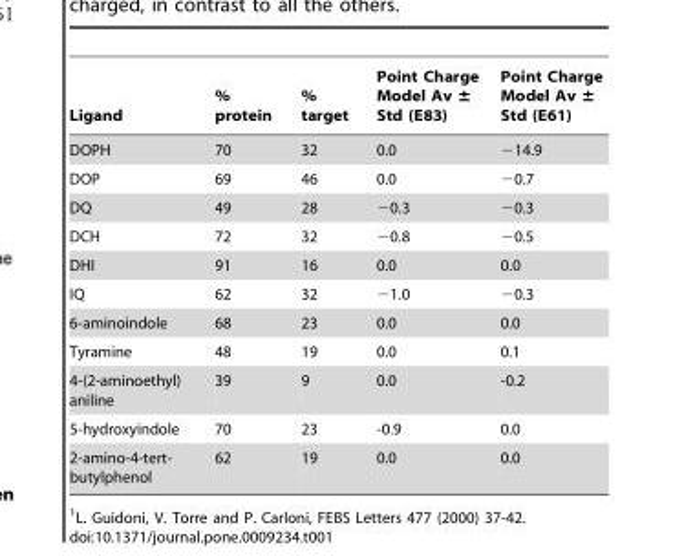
<table><thead><tr><td>Ligand</td><td>% protein</td><td>% target</td><td>Point Charge Model Av ± Std (E83)</td><td>Point Charge Model Av ± Std (E61)</td></tr></thead><tbody><tr><td>DOPH</td><td>70</td><td>32</td><td>0.0</td><td>−14.9</td></tr><tr><td>DOP</td><td>69</td><td>46</td><td>0.0</td><td>−0.7</td></tr><tr><td>DQ</td><td>49</td><td>28</td><td>−0.3</td><td>−0.3</td></tr><tr><td>DCH</td><td>72</td><td>32</td><td>−0.8</td><td>−0.5</td></tr><tr><td>DHI</td><td>91</td><td>16</td><td>0.0</td><td>0.0</td></tr><tr><td>IQ</td><td>62</td><td>32</td><td>−1.0</td><td>−0.3</td></tr><tr><td>6-aminoindole</td><td>68</td><td>23</td><td>0.0</td><td>0.0</td></tr><tr><td>Tyramine</td><td>48</td><td>19</td><td>0.0</td><td>0.1</td></tr><tr><td>4-(2-aminoethyl) aniline</td><td>39</td><td>9</td><td>0.0</td><td>-0.2</td></tr><tr><td>5-hydroxyindole</td><td>70</td><td>23</td><td>-0.9</td><td>0.0</td></tr><tr><td>2-amino-4-tert- butylphenol</td><td>62</td><td>19</td><td>0.0</td><td>0.0</td></tr></tbody></table>